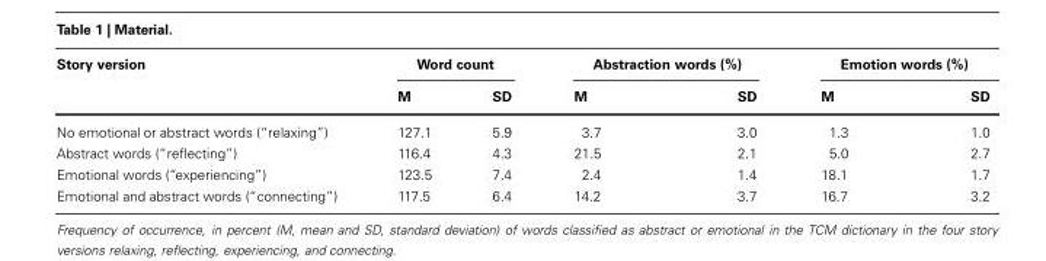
<table><thead><tr><td rowspan="2">Story version</td><td colspan="2">Word count</td><td colspan="2">Abstraction words (%)</td><td colspan="2">Emotion words (%)</td></tr><tr><td>M</td><td>SD</td><td>M</td><td>SD</td><td>M</td><td>SD</td></tr></thead><tbody><tr><td>No emotional or abstract words (“relaxing”)</td><td>127.1</td><td>5.9</td><td>3.7</td><td>3.0</td><td>1.3</td><td>1.0</td></tr><tr><td>Abstract words (“reflecting”)</td><td>116.4</td><td>4.3</td><td>21.5</td><td>2.1</td><td>5.0</td><td>2.7</td></tr><tr><td>Emotional words (“experiencing”)</td><td>123.5</td><td>7.4</td><td>2.4</td><td>1.4</td><td>18.1</td><td>1.7</td></tr><tr><td>Emotional and abstract words (“connecting”)</td><td>117.5</td><td>6.4</td><td>14.2</td><td>3.7</td><td>16.7</td><td>3.2</td></tr></tbody></table>